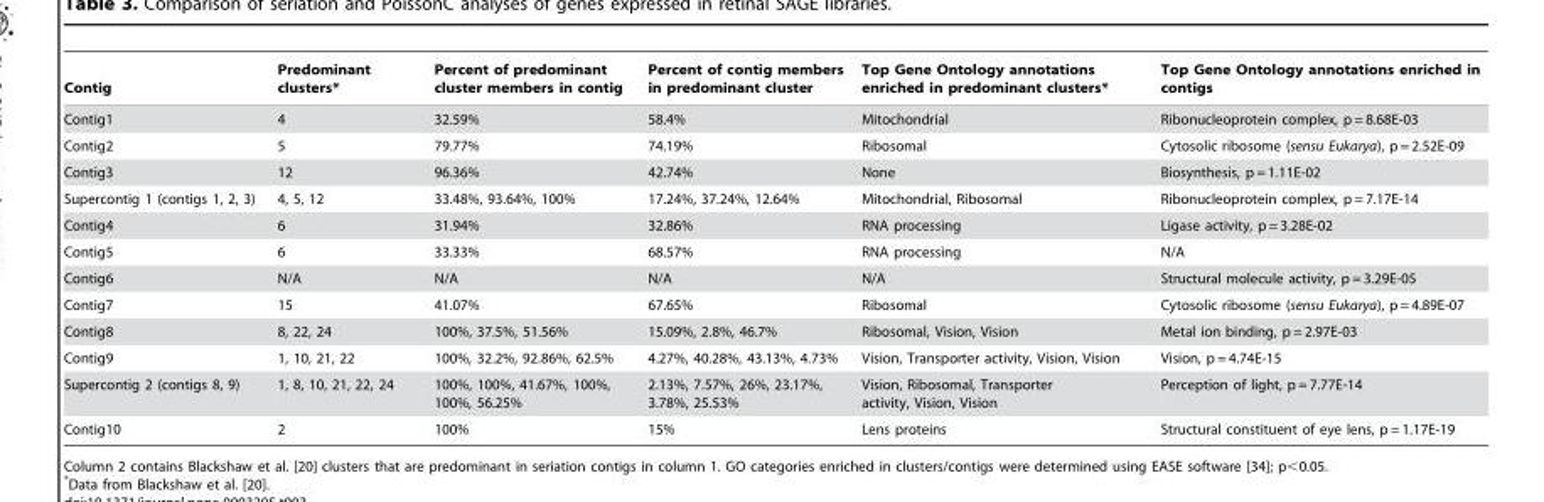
<table><thead><tr><td>Contig</td><td>Predominant clusters*</td><td>Percent of predominant cluster members in contig</td><td>Percent of contig members in predominant cluster</td><td>Top Gene Ontology annotations enriched in predominant clusters*</td><td>Top Gene Ontology annotations enriched in contigs</td></tr></thead><tbody><tr><td>Contig1</td><td>4</td><td>32.59%</td><td>58.4%</td><td>Mitochondrial</td><td>Ribonucleoprotein complex, p = 8.68E-03</td></tr><tr><td>Contig2</td><td>5</td><td>79.77%</td><td>74.19%</td><td>Ribosomal</td><td>Cytosolic ribosome (sensu Eukarya), p = 2.52E-09</td></tr><tr><td>Contig3</td><td>12</td><td>96.36%</td><td>42.74%</td><td>None</td><td>Biosynthesis, p = 1.11E-02</td></tr><tr><td>Supercontig 1 (contigs 1, 2, 3)</td><td>4, 5, 12</td><td>33.48%, 93.64%, 100%</td><td>17.24%, 37.24%, 12.64%</td><td>Mitochondrial, Ribosomal</td><td>Ribonucleoprotein complex, p = 7.17E-14</td></tr><tr><td>Contig4</td><td>6</td><td>31.94%</td><td>32.86%</td><td>RNA processing</td><td>Ligase activity, p = 3.28E-02</td></tr><tr><td>Contig5</td><td>6</td><td>33.33%</td><td>68.57%</td><td>RNA processing</td><td>N/A</td></tr><tr><td>Contig6</td><td>N/A</td><td>N/A</td><td>N/A</td><td>N/A</td><td>Structural molecule activity, p = 3.29E-05</td></tr><tr><td>Contig7</td><td>15</td><td>41.07%</td><td>67.65%</td><td>Ribosomal</td><td>Cytosolic ribosome (sensu Eukarya), p = 4.89E-07</td></tr><tr><td>Contig8</td><td>8, 22, 24</td><td>100%, 37.5%, 51.56%</td><td>15.09%, 2.8%, 46.7%</td><td>Ribosomal, Vision, Vision</td><td>Metal ion binding, p = 2.97E-03</td></tr><tr><td>Contig9</td><td>1, 10, 21, 22</td><td>100%, 32.2%, 92.86%, 62.5%</td><td>4.27%, 40.28%, 43.13%, 4.73%</td><td>Vision, Transporter activity, Vision, Vision</td><td>Vision, p = 4.74E-15</td></tr><tr><td>Supercontig 2 (contigs 8, 9)</td><td>1, 8, 10, 21, 22, 24</td><td>100%, 100%, 41.67%, 100%, 100%, 56.25%</td><td>2.13%, 7.57%, 26%, 23.17%, 3.78%, 25.53%</td><td>Vision, Ribosomal, Transporter activity, Vision, Vision</td><td>Perception of light, p = 7.77E-14</td></tr><tr><td>Contig10</td><td>2</td><td>100%</td><td>15%</td><td>Lens proteins</td><td>Structural constituent of eye lens, p = 1.17E-19</td></tr></tbody></table>